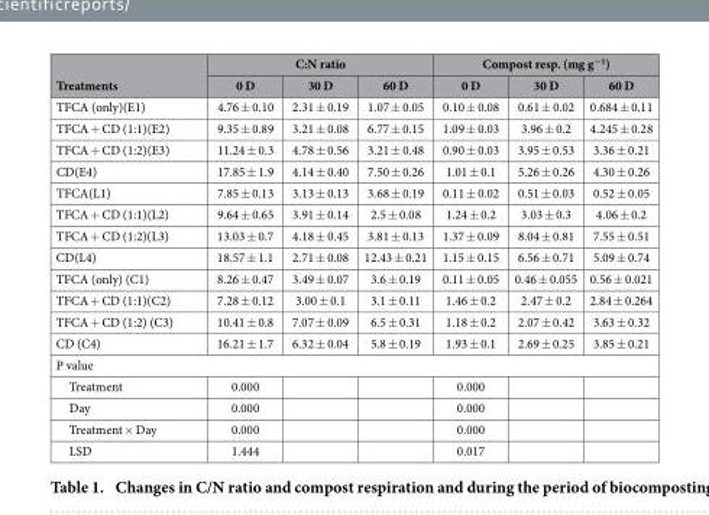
<table><thead><tr><td rowspan="2">Treatments</td><td colspan="3">C:N ratio</td><td colspan="3">Compost resp. (mg g<sup>−1</sup>)</td></tr><tr><td>0 D</td><td>30 D</td><td>60 D</td><td>0 D</td><td>30 D</td><td>60 D</td></tr></thead><tbody><tr><td>TFCA (only)(E1)</td><td>4.76 ± 0.10</td><td>2.31 ± 0.19</td><td>1.07 ± 0.05</td><td>0.10 ± 0.08</td><td>0.61 ± 0.02</td><td>0.684 ± 0.11</td></tr><tr><td>TFCA + CD (1:1)(E2)</td><td>9.35 ± 0.89</td><td>3.21 ± 0.08</td><td>6.77 ± 0.15</td><td>1.09 ± 0.03</td><td>3.96 ± 0.2</td><td>4.245 ± 0.28</td></tr><tr><td>TFCA + CD (1:2)(E3)</td><td>11.24 ± 0.3</td><td>4.78 ± 0.56</td><td>3.21 ± 0.48</td><td>0.90 ± 0.03</td><td>3.95 ± 0.53</td><td>3.36 ± 0.21</td></tr><tr><td>CD(E4)</td><td>17.85 ± 1.9</td><td>4.14 ± 0.40</td><td>7.50 ± 0.26</td><td>1.01 ± 0.1</td><td>5.26 ± 0.26</td><td>4.30 ± 0.26</td></tr><tr><td>TFCA(L1)</td><td>7.85 ± 0.13</td><td>3.13 ± 0.13</td><td>3.68 ± 0.19</td><td>0.11 ± 0.02</td><td>0.51 ± 0.03</td><td>0.52 ± 0.05</td></tr><tr><td>TFCA + CD (1:1)(L2)</td><td>9.64 ± 0.65</td><td>3.91 ± 0.14</td><td>2.5 ± 0.08</td><td>1.24 ± 0.2</td><td>3.03 ± 0.3</td><td>4.06 ± 0.2</td></tr><tr><td>TFCA + CD (1:2)(L3)</td><td>13.03 ± 0.7</td><td>4.18 ± 0.45</td><td>3.81 ± 0.13</td><td>1.37 ± 0.09</td><td>8.04 ± 0.81</td><td>7.55 ± 0.51</td></tr><tr><td>CD(L4)</td><td>18.57 ± 1.1</td><td>2.71 ± 0.08</td><td>12.43 ± 0.21</td><td>1.15 ± 0.15</td><td>6.56 ± 0.71</td><td>5.09 ± 0.74</td></tr><tr><td>TFCA (only) (C1)</td><td>8.26 ± 0.47</td><td>3.49 ± 0.07</td><td>3.6 ± 0.19</td><td>0.11 ± 0.05</td><td>0.46 ± 0.055</td><td>0.56 ± 0.021</td></tr><tr><td>TFCA + CD (1:1)(C2)</td><td>7.28 ± 0.12</td><td>3.00 ± 0.1</td><td>3.1 ± 0.11</td><td>1.46 ± 0.2</td><td>2.47 ± 0.2</td><td>2.84 ± 0.264</td></tr><tr><td>TFCA + CD (1:2) (C3)</td><td>10.41 ± 0.8</td><td>7.07 ± 0.09</td><td>6.5 ± 0.31</td><td>1.18 ± 0.2</td><td>2.07 ± 0.42</td><td>3.63 ± 0.32</td></tr><tr><td>CD (C4)</td><td>16.21 ± 1.7</td><td>6.32 ± 0.04</td><td>5.8 ± 0.19</td><td>1.93 ± 0.1</td><td>2.69 ± 0.25</td><td>3.85 ± 0.21</td></tr><tr><td colspan="7">P value</td></tr><tr><td>Treatment</td><td>0.000</td><td></td><td></td><td>0.000</td><td></td><td></td></tr><tr><td>Day</td><td>0.000</td><td></td><td></td><td>0.000</td><td></td><td></td></tr><tr><td>Treatment × Day</td><td>0.000</td><td></td><td></td><td>0.000</td><td></td><td></td></tr><tr><td>LSD</td><td>1.444</td><td></td><td></td><td>0.017</td><td></td><td></td></tr></tbody></table>